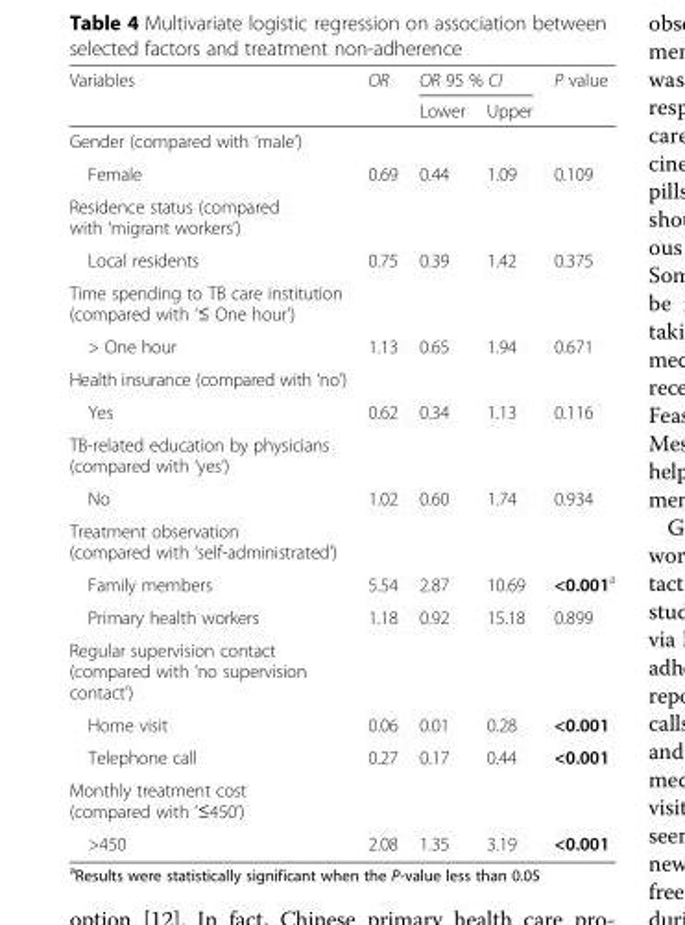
<table><thead><tr><td rowspan="2">Variables</td><td rowspan="2">OR</td><td colspan="2">OR 95 % CI</td><td rowspan="2">P value</td></tr><tr><td>Lower</td><td>Upper</td></tr></thead><tbody><tr><td colspan="5">Gender (compared with ‘male’)</td></tr><tr><td>Female</td><td>0.69</td><td>0.44</td><td>1.09</td><td>0.109</td></tr><tr><td colspan="5">Residence status (compared with ‘migrant workers’)</td></tr><tr><td>Local residents</td><td>0.75</td><td>0.39</td><td>1.42</td><td>0.375</td></tr><tr><td colspan="5">Time spending to TB care institution (compared with ‘≤ One hour’)</td></tr><tr><td>&gt; One hour</td><td>1.13</td><td>0.65</td><td>1.94</td><td>0.671</td></tr><tr><td colspan="5">Health insurance (compared with ‘no’)</td></tr><tr><td>Yes</td><td>0.62</td><td>0.34</td><td>1.13</td><td>0.116</td></tr><tr><td colspan="5">TB-related education by physicians (compared with ‘yes’)</td></tr><tr><td>No</td><td>1.02</td><td>0.60</td><td>1.74</td><td>0.934</td></tr><tr><td colspan="5">Treatment observation (compared with ‘self-administrated’)</td></tr><tr><td>Family members</td><td>5.54</td><td>2.87</td><td>10.69</td><td>&lt;0.001<sup>a</sup></td></tr><tr><td>Primary health workers</td><td>1.18</td><td>0.92</td><td>15.18</td><td>0.899</td></tr><tr><td colspan="5">Regular supervision contact (compared with ‘no supervision contact’)</td></tr><tr><td>Home visit</td><td>0.06</td><td>0.01</td><td>0.28</td><td>&lt;0.001</td></tr><tr><td>Telephone call</td><td>0.27</td><td>0.17</td><td>0.44</td><td>&lt;0.001</td></tr><tr><td colspan="5">Monthly treatment cost (compared with ‘≤450’)</td></tr><tr><td>&gt;450</td><td>2.08</td><td>1.35</td><td>3.19</td><td>&lt;0.001</td></tr></tbody></table>